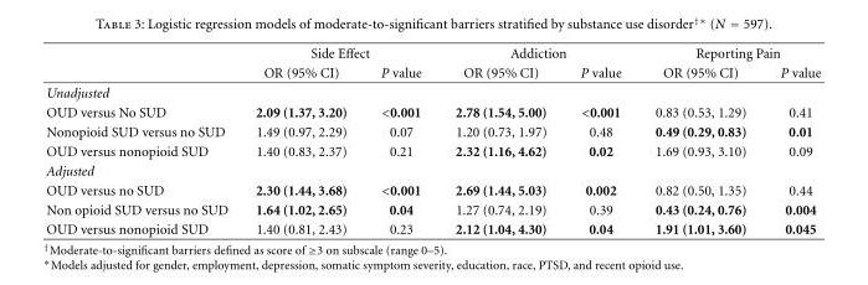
<table><thead><tr><td rowspan="2"></td><td colspan="2">Side Effect</td><td colspan="2">Addiction</td><td colspan="2">Reporting Pain</td></tr><tr><td>OR (95% CI)</td><td>P value</td><td>OR (95% CI)</td><td>P value</td><td>OR (95% CI)</td><td>P value</td></tr></thead><tbody><tr><td colspan="7">Unadjusted</td></tr><tr><td>OUD versus No SUD</td><td>2.09 (1.37, 3.20)</td><td>&lt;0.001</td><td>2.78 (1.54, 5.00)</td><td>&lt;0.001</td><td>0.83 (0.53, 1.29)</td><td>0.41</td></tr><tr><td>Nonopioid SUD versus no SUD</td><td>1.49 (0.97, 2.29)</td><td>0.07</td><td>1.20 (0.73, 1.97)</td><td>0.48</td><td>0.49 (0.29, 0.83)</td><td>0.01</td></tr><tr><td>OUD versus nonopioid SUD</td><td>1.40 (0.83, 2.37)</td><td>0.21</td><td>2.32 (1.16, 4.62)</td><td>0.02</td><td>1.69 (0.93, 3.10)</td><td>0.09</td></tr><tr><td colspan="7">Adjusted</td></tr><tr><td>OUD versus no SUD</td><td>2.30 (1.44, 3.68)</td><td>&lt;0.001</td><td>2.69 (1.44, 5.03)</td><td>0.002</td><td>0.82 (0.50, 1.35)</td><td>0.44</td></tr><tr><td>Non opioid SUD versus no SUD</td><td>1.64 (1.02, 2.65)</td><td>0.04</td><td>1.27 (0.74, 2.19)</td><td>0.39</td><td>0.43 (0.24, 0.76)</td><td>0.004</td></tr><tr><td>OUD versus nonopioid SUD</td><td>1.40 (0.81, 2.43)</td><td>0.23</td><td>2.12 (1.04, 4.30)</td><td>0.04</td><td>1.91 (1.01, 3.60)</td><td>0.045</td></tr></tbody></table>